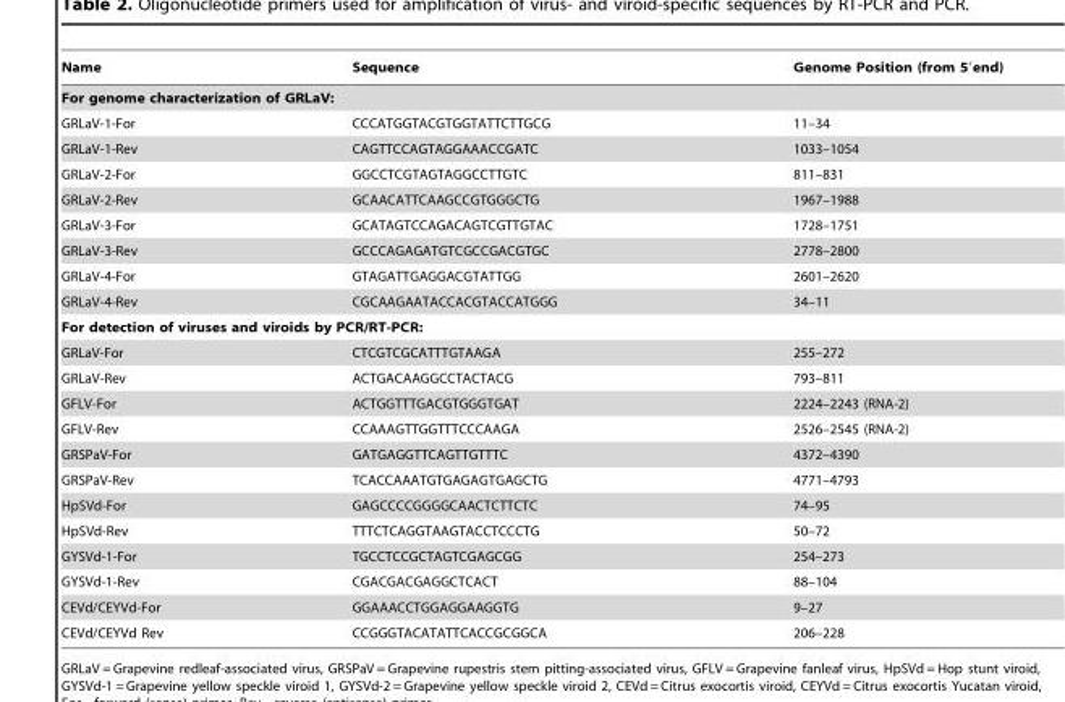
<table><thead><tr><td>Name</td><td>Sequence</td><td>Genome Position (from 5′end)</td></tr></thead><tbody><tr><td colspan="3">For genome characterization of GRLaV:</td></tr><tr><td>GRLaV-1-For</td><td>CCCATGGTACGTGGTATTCTTGCG</td><td>11–34</td></tr><tr><td>GRLaV-1-Rev</td><td>CAGTTCCAGTAGGAAACCGATC</td><td>1033–1054</td></tr><tr><td>GRLaV-2-For</td><td>GGCCTCGTAGTAGGCCTTGTC</td><td>811–831</td></tr><tr><td>GRLaV-2-Rev</td><td>GCAACATTCAAGCCGTGGGCTG</td><td>1967–1988</td></tr><tr><td>GRLaV-3-For</td><td>GCATAGTCCAGACAGTCGTTGTAC</td><td>1728–1751</td></tr><tr><td>GRLaV-3-Rev</td><td>GCCCAGAGATGTCGCCGACGTGC</td><td>2778–2800</td></tr><tr><td>GRLaV-4-For</td><td>GTAGATTGAGGACGTATTGG</td><td>2601–2620</td></tr><tr><td>GRLaV-4-Rev</td><td>CGCAAGAATACCACGTACCATGGG</td><td>34–11</td></tr><tr><td colspan="3">For detection of viruses and viroids by PCR/RT-PCR:</td></tr><tr><td>GRLaV-For</td><td>CTCGTCGCATTTGTAAGA</td><td>255–272</td></tr><tr><td>GRLaV-Rev</td><td>ACTGACAAGGCCTACTACG</td><td>793–811</td></tr><tr><td>GFLV-For</td><td>ACTGGTTTGACGTGGGTGAT</td><td>2224–2243 (RNA-2)</td></tr><tr><td>GFLV-Rev</td><td>CCAAAGTTGGTTTCCCAAGA</td><td>2526–2545 (RNA-2)</td></tr><tr><td>GRSPaV-For</td><td>GATGAGGTTCAGTTGTTTC</td><td>4372–4390</td></tr><tr><td>GRSPaV-Rev</td><td>TCACCAAATGTGAGAGTGAGCTG</td><td>4771–4793</td></tr><tr><td>HpSVd-For</td><td>GAGCCCCGGGGCAACTCTTCTC</td><td>74–95</td></tr><tr><td>HpSVd-Rev</td><td>TTTCTCAGGTAAGTACCTCCCTG</td><td>50–72</td></tr><tr><td>GYSVd-1-For</td><td>TGCCTCCGCTAGTCGAGCGG</td><td>254–273</td></tr><tr><td>GYSVd-1-Rev</td><td>CGACGACGAGGCTCACT</td><td>88–104</td></tr><tr><td>CEVd/CEYVd-For</td><td>GGAAACCTGGAGGAAGGTG</td><td>9–27</td></tr><tr><td>CEVd/CEYVd Rev</td><td>CCGGGTACATATTCACCGCGGCA</td><td>206–228</td></tr></tbody></table>